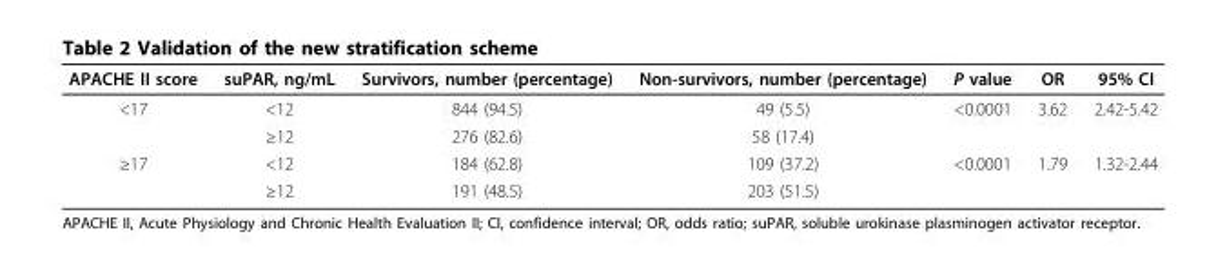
<table><thead><tr><td>APACHE II score</td><td>suPAR, ng/mL</td><td>Survivors, number (percentage)</td><td>Non-survivors, number (percentage)</td><td>P value</td><td>OR</td><td>95% CI</td></tr></thead><tbody><tr><td rowspan="2">&lt;17</td><td>&lt;12</td><td>844 (94.5)</td><td>49 (5.5)</td><td>&lt;0.0001</td><td>3.62</td><td>2.42-5.42</td></tr><tr><td>≥12</td><td>276 (82.6)</td><td>58 (17.4)</td><td></td><td></td><td></td></tr><tr><td rowspan="2">≥17</td><td>&lt;12</td><td>184 (62.8)</td><td>109 (37.2)</td><td>&lt;0.0001</td><td>1.79</td><td>1.32-2.44</td></tr><tr><td>≥12</td><td>191 (48.5)</td><td>203 (51.5)</td><td></td><td></td><td></td></tr></tbody></table>